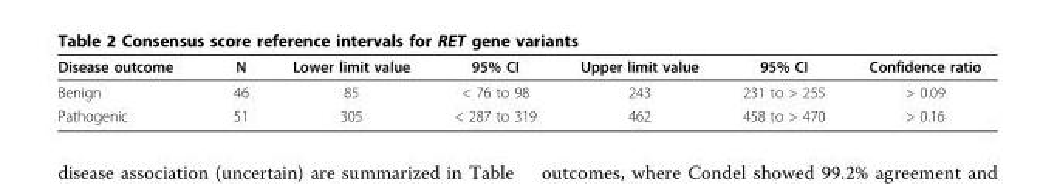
<table><thead><tr><td>Disease outcome</td><td>N</td><td>Lower limit value</td><td>95% CI</td><td>Upper limit value</td><td>95% CI</td><td>Confidence ratio</td></tr></thead><tbody><tr><td>Benign</td><td>46</td><td>85</td><td>&lt; 76 to 98</td><td>243</td><td>231 to &gt; 255</td><td>&gt; 0.09</td></tr><tr><td>Pathogenic</td><td>51</td><td>305</td><td>&lt; 287 to 319</td><td>462</td><td>458 to &gt; 470</td><td>&gt; 0.16</td></tr></tbody></table>